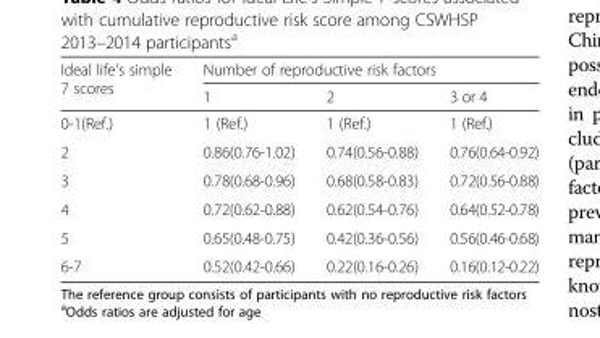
<table><thead><tr><td rowspan="2">Ideal life&#x27;s simple 7 scores</td><td colspan="3">Number of reproductive risk factors</td></tr><tr><td>1</td><td>2</td><td>3 or 4</td></tr></thead><tbody><tr><td>0-1(Ref.)</td><td>1 (Ref.)</td><td>1 (Ref.)</td><td>1 (Ref.)</td></tr><tr><td>2</td><td>0.86(0.76-1.02)</td><td>0.74(0.56-0.88)</td><td>0.76(0.64-0.92)</td></tr><tr><td>3</td><td>0.78(0.68-0.96)</td><td>0.68(0.58-0.83)</td><td>0.72(0.56-0.88)</td></tr><tr><td>4</td><td>0.72(0.62-0.88)</td><td>0.62(0.54-0.76)</td><td>0.64(0.52-0.78)</td></tr><tr><td>5</td><td>0.65(0.48-0.75)</td><td>0.42(0.36-0.56)</td><td>0.56(0.46-0.68)</td></tr><tr><td>6-7</td><td>0.52(0.42-0.66)</td><td>0.22(0.16-0.26)</td><td>0.16(0.12-0.22)</td></tr></tbody></table>